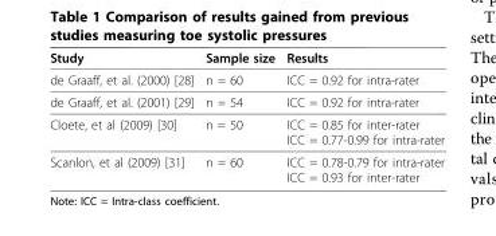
<table><thead><tr><td>Study</td><td>Sample size</td><td>Results</td></tr></thead><tbody><tr><td>de Graaff, et al. (2000) [28]</td><td>n = 60</td><td>ICC = 0.92 for intra-rater</td></tr><tr><td>de Graaff, et al. (2001) [29]</td><td>n = 54</td><td>ICC = 0.92 for intra-rater</td></tr><tr><td>Cloete, et al (2009) [30]</td><td>n = 50</td><td>ICC = 0.85 for inter-rater ICC = 0.77-0.99 for intra-rater</td></tr><tr><td>Scanlon, et al (2009) [31]</td><td>n = 60</td><td>ICC = 0.78-0.79 for intra-rater ICC = 0.93 for inter-rater</td></tr></tbody></table>